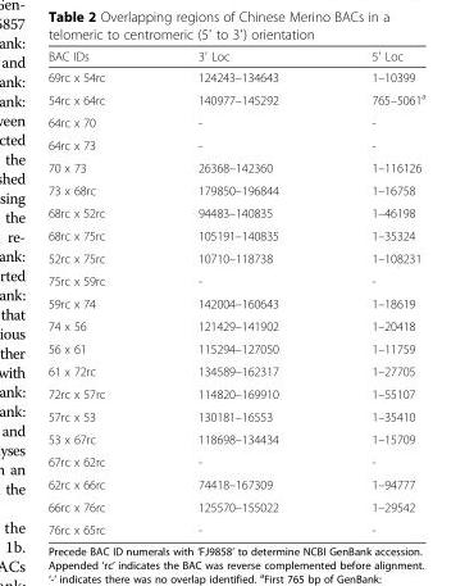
<table><thead><tr><td>BAC IDs</td><td>3′ Loc</td><td>5′ Loc</td></tr></thead><tbody><tr><td>69rc x 54rc</td><td>124243–134643</td><td>1–10399</td></tr><tr><td>54rc x 64rc</td><td>140977–145292</td><td>765–5061<sup>a</sup></td></tr><tr><td>64rc x 70</td><td>-</td><td>-</td></tr><tr><td>64rc x 73</td><td>-</td><td>-</td></tr><tr><td>70 x 73</td><td>26368–142360</td><td>1–116126</td></tr><tr><td>73 x 68rc</td><td>179850–196844</td><td>1–16758</td></tr><tr><td>68rc x 52rc</td><td>94483–140835</td><td>1–46198</td></tr><tr><td>68rc x 75rc</td><td>105191–140835</td><td>1–35324</td></tr><tr><td>52rc x 75rc</td><td>10710–118738</td><td>1–108231</td></tr><tr><td>75rc x 59rc</td><td>-</td><td>-</td></tr><tr><td>59rc x 74</td><td>142004–160643</td><td>1–18619</td></tr><tr><td>74 x 56</td><td>121429–141902</td><td>1–20418</td></tr><tr><td>56 x 61</td><td>115294–127050</td><td>1–11759</td></tr><tr><td>61 x 72rc</td><td>134589–162317</td><td>1–27705</td></tr><tr><td>72rc x 57rc</td><td>114820–169910</td><td>1–55107</td></tr><tr><td>57rc x 53</td><td>130181–16553</td><td>1–35410</td></tr><tr><td>53 x 67rc</td><td>118698–134434</td><td>1–15709</td></tr><tr><td>67rc x 62rc</td><td>-</td><td>-</td></tr><tr><td>62rc x 66rc</td><td>74418–167309</td><td>1–94777</td></tr><tr><td>66rc x 76rc</td><td>125570–155022</td><td>1–29542</td></tr><tr><td>76rc x 65rc</td><td>-</td><td>-</td></tr></tbody></table>